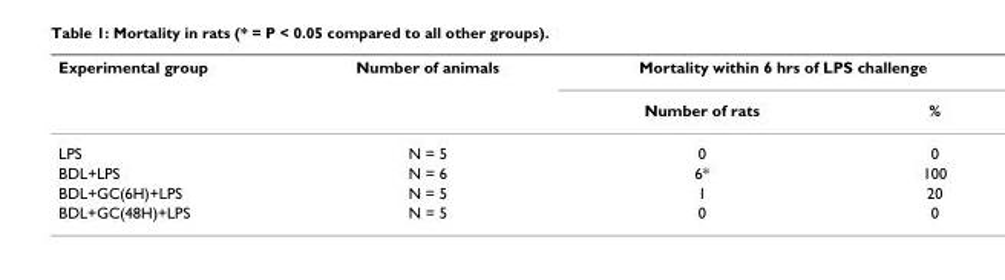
<table><thead><tr><td rowspan="2">Experimental group</td><td rowspan="2">Number of animals</td><td colspan="2">Mortality within 6 hrs of LPS challenge</td></tr><tr><td>Number of rats</td><td>%</td></tr></thead><tbody><tr><td>LPS</td><td>N = 5</td><td>0</td><td>0</td></tr><tr><td>BDL+LPS</td><td>N = 6</td><td>6*</td><td>100</td></tr><tr><td>BDL+GC(6H)+LPS</td><td>N = 5</td><td>1</td><td>20</td></tr><tr><td>BDL+GC(48H)+LPS</td><td>N = 5</td><td>0</td><td>0</td></tr></tbody></table>